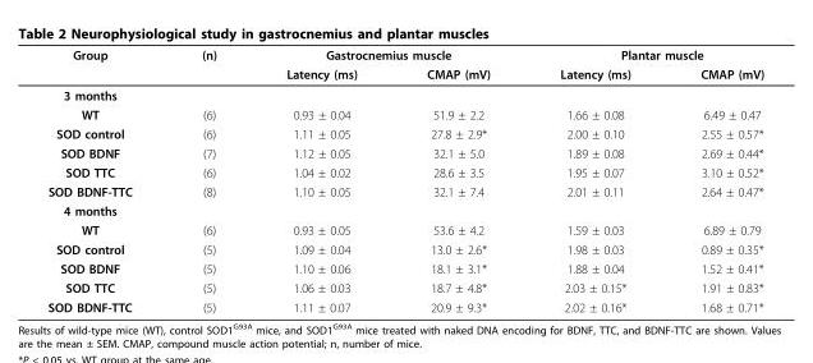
<table><thead><tr><td rowspan="2">Group</td><td rowspan="2">(n)</td><td colspan="2">Gastrocnemius muscle</td><td colspan="2">Plantar muscle</td></tr><tr><td>Latency (ms)</td><td>CMAP (mV)</td><td>Latency (ms)</td><td>CMAP (mV)</td></tr></thead><tbody><tr><td colspan="6">3 months</td></tr><tr><td>WT</td><td>(6)</td><td>0.93 ± 0.04</td><td>51.9 ± 2.2</td><td>1.66 ± 0.08</td><td>6.49 ± 0.47</td></tr><tr><td>SOD control</td><td>(6)</td><td>1.11 ± 0.05</td><td>27.8 ± 2.9*</td><td>2.00 ± 0.10</td><td>2.55 ± 0.57*</td></tr><tr><td>SOD BDNF</td><td>(7)</td><td>1.12 ± 0.05</td><td>32.1 ± 5.0</td><td>1.89 ± 0.08</td><td>2.69 ± 0.44*</td></tr><tr><td>SOD TTC</td><td>(6)</td><td>1.04 ± 0.02</td><td>28.6 ± 3.5</td><td>1.95 ± 0.07</td><td>3.10 ± 0.52*</td></tr><tr><td>SOD BDNF-TTC</td><td>(8)</td><td>1.10 ± 0.05</td><td>32.1 ± 7.4</td><td>2.01 ± 0.11</td><td>2.64 ± 0.47*</td></tr><tr><td colspan="6">4 months</td></tr><tr><td>WT</td><td>(6)</td><td>0.93 ± 0.05</td><td>53.6 ± 4.2</td><td>1.59 ± 0.03</td><td>6.89 ± 0.79</td></tr><tr><td>SOD control</td><td>(5)</td><td>1.09 ± 0.04</td><td>13.0 ± 2.6*</td><td>1.98 ± 0.03</td><td>0.89 ± 0.35*</td></tr><tr><td>SOD BDNF</td><td>(5)</td><td>1.10 ± 0.06</td><td>18.1 ± 3.1*</td><td>1.88 ± 0.04</td><td>1.52 ± 0.41*</td></tr><tr><td>SOD TTC</td><td>(5)</td><td>1.06 ± 0.03</td><td>18.7 ± 4.8*</td><td>2.03 ± 0.15*</td><td>1.91 ± 0.83*</td></tr><tr><td>SOD BDNF-TTC</td><td>(5)</td><td>1.11 ± 0.07</td><td>20.9 ± 9.3*</td><td>2.02 ± 0.16*</td><td>1.68 ± 0.71*</td></tr></tbody></table>